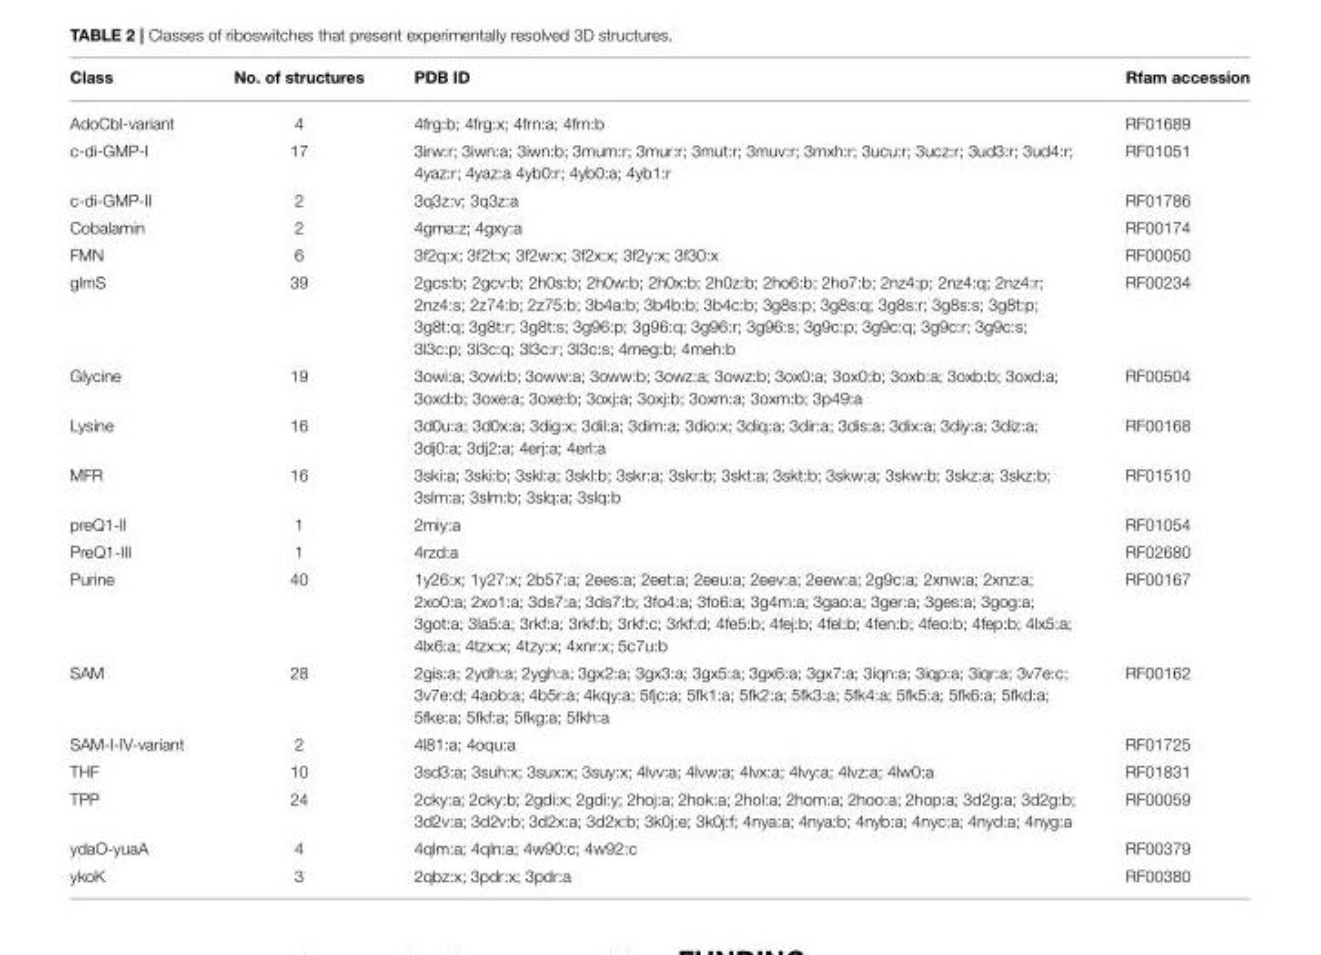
<table><thead><tr><td>Class</td><td>No. of structures</td><td>PDB ID</td><td>Rfam accession</td></tr></thead><tbody><tr><td>AdoCbl-variant</td><td>4</td><td>4frg:b; 4frg:x; 4frn:a; 4frn:b</td><td>RF01689</td></tr><tr><td>c-di-GMP-I</td><td>17</td><td>3irw:r; 3iwn:a; 3iwn:b; 3mum:r; 3mur:r; 3mut:r; 3muv:r; 3mxh:r; 3ucu:r; 3ucz:r; 3ud3:r; 3ud4:r; 4yaz:r; 4yaz:a 4yb0:r; 4yb0:a; 4yb1:r</td><td>RF01051</td></tr><tr><td>c-di-GMP-II</td><td>2</td><td>3q3z:v; 3q3z:a</td><td>RF01786</td></tr><tr><td>Cobalamin</td><td>2</td><td>4gma:z; 4gxy:a</td><td>RF00174</td></tr><tr><td>FMN</td><td>6</td><td>3f2q:x; 3f2t:x; 3f2w:x; 3f2x:x; 3f2y:x; 3f30:x</td><td>RF00050</td></tr><tr><td>glmS</td><td>39</td><td>2gcs:b; 2gcv:b; 2h0s:b; 2h0w:b; 2h0x:b; 2h0z:b; 2ho6:b; 2ho7:b; 2nz4:p; 2nz4:q; 2nz4:r; 2nz4:s; 2z74:b; 2z75:b; 3b4a:b; 3b4b:b; 3b4c:b; 3g8s:p; 3g8s:q; 3g8s:r; 3g8s:s; 3g8t:p; 3g8t:q; 3g8t:r; 3g8t:s; 3g96:p; 3g96:q; 3g96:r; 3g96:s; 3g9c:p; 3g9c:q; 3g9c:r; 3g9c:s; 3l3c:p; 3l3c:q; 3l3c:r; 3l3c:s; 4meg:b; 4meh:b</td><td>RF00234</td></tr><tr><td>Glycine</td><td>19</td><td>3owi:a; 3owi:b; 3oww:a; 3oww:b; 3owz:a; 3owz:b; 3ox0:a; 3ox0:b; 3oxb:a; 3oxb:b; 3oxd:a; 3oxd:b; 3oxe:a; 3oxe:b; 3oxj:a; 3oxj:b; 3oxm:a; 3oxm:b; 3p49:a</td><td>RF00504</td></tr><tr><td>Lysine</td><td>16</td><td>3d0u:a; 3d0x:a; 3dig:x; 3dil:a; 3dim:a; 3dio:x; 3diq:a; 3dir:a; 3dis:a; 3dix:a; 3diy:a; 3diz:a; 3dj0:a; 3dj2:a; 4erj:a; 4erl:a</td><td>RF00168</td></tr><tr><td>MFR</td><td>16</td><td>3ski:a; 3ski:b; 3skl:a; 3skl:b; 3skr:a; 3skr:b; 3skt:a; 3skt:b; 3skw:a; 3skw:b; 3skz:a; 3skz:b; 3slm:a; 3slm:b; 3slq:a; 3slq:b</td><td>RF01510</td></tr><tr><td>preQ1-II</td><td>1</td><td>2miy:a</td><td>RF01054</td></tr><tr><td>PreQ1-III</td><td>1</td><td>4rzd:a</td><td>RF02680</td></tr><tr><td>Purine</td><td>40</td><td>1y26:x; 1y27:x; 2b57:a; 2ees:a; 2eet:a; 2eeu:a; 2eev:a; 2eew:a; 2g9c:a; 2xnw:a; 2xnz:a; 2xo0:a; 2xo1:a; 3ds7:a; 3ds7:b; 3fo4:a; 3fo6:a; 3g4m:a; 3gao:a; 3ger:a; 3ges:a; 3gog:a; 3got:a; 3la5:a; 3rkf:a; 3rkf:b; 3rkf:c; 3rkf:d; 4fe5:b; 4fej:b; 4fel:b; 4fen:b; 4feo:b; 4fep:b; 4lx5:a; 4lx6:a; 4tzx:x; 4tzy:x; 4xnr:x; 5c7u:b</td><td>RF00167</td></tr><tr><td>SAM</td><td>28</td><td>2gis:a; 2ydh:a; 2ygh:a; 3gx2:a; 3gx3:a; 3gx5:a; 3gx6:a; 3gx7:a; 3iqn:a; 3iqp:a; 3iqr:a; 3v7e:c; 3v7e:d; 4aob:a; 4b5r:a; 4kqy:a; 5fjc:a; 5fk1:a; 5fk2:a; 5fk3:a; 5fk4:a; 5fk5:a; 5fk6:a; 5fkd:a; 5fke:a; 5fkf:a; 5fkg:a; 5fkh:a</td><td>RF00162</td></tr><tr><td>SAM-I-IV-variant</td><td>2</td><td>4l81:a; 4oqu:a</td><td>RF01725</td></tr><tr><td>THF</td><td>10</td><td>3sd3:a; 3suh:x; 3sux:x; 3suy:x; 4lvv:a; 4lvw:a; 4lvx:a; 4lvy:a; 4lvz:a; 4lw0:a</td><td>RF01831</td></tr><tr><td>TPP</td><td>24</td><td>2cky:a; 2cky:b; 2gdi:x; 2gdi:y; 2hoj:a; 2hok:a; 2hol:a; 2hom:a; 2hoo:a; 2hop:a; 3d2g:a; 3d2g:b; 3d2v:a; 3d2v:b; 3d2x:a; 3d2x:b; 3k0j:e; 3k0j:f; 4nya:a; 4nya:b; 4nyb:a; 4nyc:a; 4nyd:a; 4nyg:a</td><td>RF00059</td></tr><tr><td>ydaO-yuaA</td><td>4</td><td>4qlm:a; 4qln:a; 4w90:c; 4w92:c</td><td>RF00379</td></tr><tr><td>ykoK</td><td>3</td><td>2qbz:x; 3pdr:x; 3pdr:a</td><td>RF00380</td></tr></tbody></table>